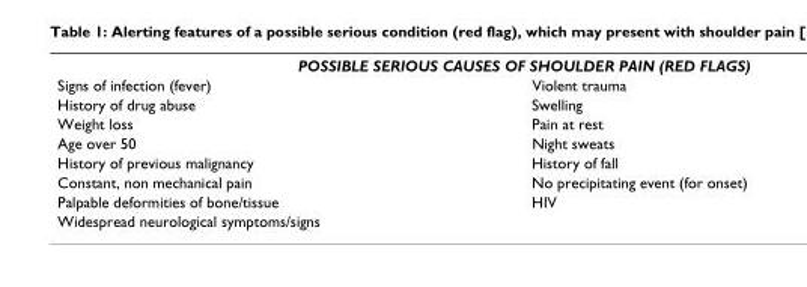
<table><tbody><tr><td colspan="2">POSSIBLE SERIOUS CAUSES OF SHOULDER PAIN (RED FLAGS)</td></tr><tr><td>Signs of infection (fever)</td><td>Violent trauma</td></tr><tr><td>History of drug abuse</td><td>Swelling</td></tr><tr><td>Weight loss</td><td>Pain at rest</td></tr><tr><td>Age over 50</td><td>Night sweats</td></tr><tr><td>History of previous malignancy</td><td>History of fall</td></tr><tr><td>Constant, non mechanical pain</td><td>No precipitating event (for onset)</td></tr><tr><td>Palpable deformities of bone/tissue</td><td>HIV</td></tr><tr><td>Widespread neurological symptoms/signs</td><td></td></tr></tbody></table>